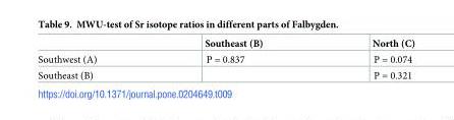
<table><thead><tr><td></td><td>Southeast (B)</td><td>North (C)</td></tr></thead><tbody><tr><td>Southwest (A)</td><td>P = 0.837</td><td>P = 0.074</td></tr><tr><td>Southeast (B)</td><td></td><td>P = 0.321</td></tr></tbody></table>